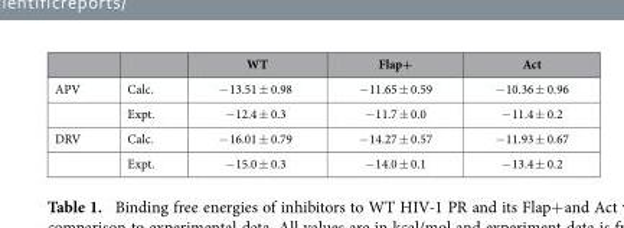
<table><thead><tr><td></td><td></td><td>WT</td><td>Flap+</td><td>Act</td></tr></thead><tbody><tr><td rowspan="2">APV</td><td>Calc.</td><td>− 13.51 ± 0.98</td><td>− 11.65 ± 0.59</td><td>− 10.36 ± 0.96</td></tr><tr><td>Expt.</td><td>− 12.4 ± 0.3</td><td>− 11.7 ± 0.0</td><td>− 11.4 ± 0.2</td></tr><tr><td rowspan="2">DRV</td><td>Calc.</td><td>− 16.01 ± 0.79</td><td>− 14.27 ± 0.57</td><td>− 11.93 ± 0.67</td></tr><tr><td>Expt.</td><td>− 15.0 ± 0.3</td><td>− 14.0 ± 0.1</td><td>− 13.4 ± 0.2</td></tr></tbody></table>